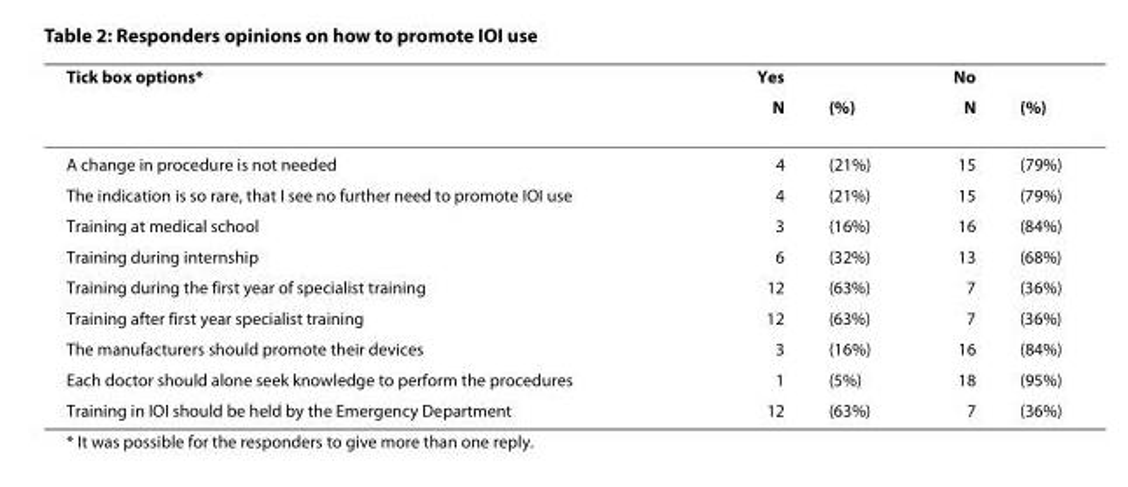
<table><thead><tr><td rowspan="2">Tick box options*</td><td rowspan="2">Yes N</td><td rowspan="2">(%)</td><td rowspan="2">No N</td><td rowspan="2">(%)</td></tr><tr></tr></thead><tbody><tr><td>A change in procedure is not needed</td><td>4</td><td>(21%)</td><td>15</td><td>(79%)</td></tr><tr><td>The indication is so rare, that I see no further need to promote IOI use</td><td>4</td><td>(21%)</td><td>15</td><td>(79%)</td></tr><tr><td>Training at medical school</td><td>3</td><td>(16%)</td><td>16</td><td>(84%)</td></tr><tr><td>Training during internship</td><td>6</td><td>(32%)</td><td>13</td><td>(68%)</td></tr><tr><td>Training during the first year of specialist training</td><td>12</td><td>(63%)</td><td>7</td><td>(36%)</td></tr><tr><td>Training after first year specialist training</td><td>12</td><td>(63%)</td><td>7</td><td>(36%)</td></tr><tr><td>The manufacturers should promote their devices</td><td>3</td><td>(16%)</td><td>16</td><td>(84%)</td></tr><tr><td>Each doctor should alone seek knowledge to perform the procedures</td><td>1</td><td>(5%)</td><td>18</td><td>(95%)</td></tr><tr><td>Training in IOI should be held by the Emergency Department</td><td>12</td><td>(63%)</td><td>7</td><td>(36%)</td></tr></tbody></table>